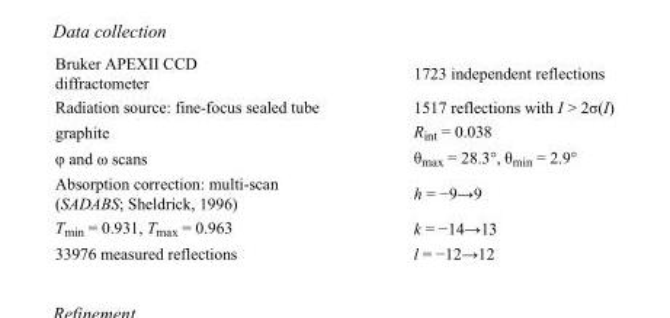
<table><tbody><tr><td>Bruker APEXII CCD diffractometer</td><td>1723 independent reflections</td></tr><tr><td>Radiation source: fine-focus sealed tube</td><td>1517 reflections with I &gt; 2σ(I)</td></tr><tr><td>graphite</td><td>R<sub>int</sub> = 0.038</td></tr><tr><td>φ and ω scans</td><td>θ<sub>max</sub> = 28.3°, θ<sub>min</sub> = 2.9°</td></tr><tr><td>Absorption correction: multi-scan (SADABS; Sheldrick, 1996)</td><td>h = −9→9</td></tr><tr><td>T<sub>min</sub> = 0.931, T<sub>max</sub> = 0.963</td><td>k = −14→13</td></tr><tr><td>33976 measured reflections</td><td>l = −12→12</td></tr></tbody></table>